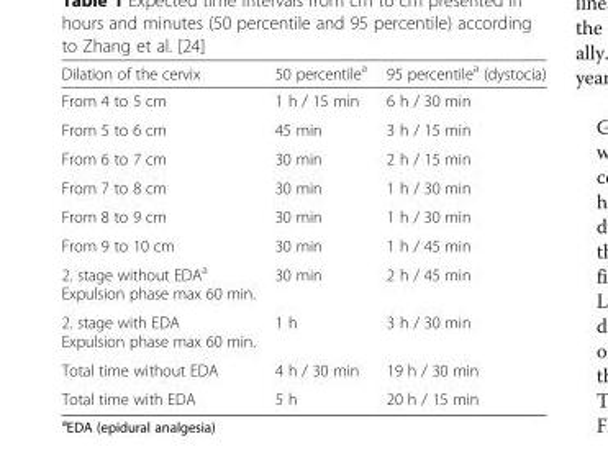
<table><thead><tr><td>Dilation of the cervix</td><td>50 percentile<sup>a</sup></td><td>95 percentile<sup>a</sup> (dystocia)</td></tr></thead><tbody><tr><td>From 4 to 5 cm</td><td>1 h / 15 min</td><td>6 h / 30 min</td></tr><tr><td>From 5 to 6 cm</td><td>45 min</td><td>3 h / 15 min</td></tr><tr><td>From 6 to 7 cm</td><td>30 min</td><td>2 h / 15 min</td></tr><tr><td>From 7 to 8 cm</td><td>30 min</td><td>1 h / 30 min</td></tr><tr><td>From 8 to 9 cm</td><td>30 min</td><td>1 h / 30 min</td></tr><tr><td>From 9 to 10 cm</td><td>30 min</td><td>1 h / 45 min</td></tr><tr><td>2. stage without EDA<sup>a</sup> Expulsion phase max 60 min.</td><td>30 min</td><td>2 h / 45 min</td></tr><tr><td>2. stage with EDA Expulsion phase max 60 min.</td><td>1 h</td><td>3 h / 30 min</td></tr><tr><td>Total time without EDA</td><td>4 h / 30 min</td><td>19 h / 30 min</td></tr><tr><td>Total time with EDA</td><td>5 h</td><td>20 h / 15 min</td></tr></tbody></table>